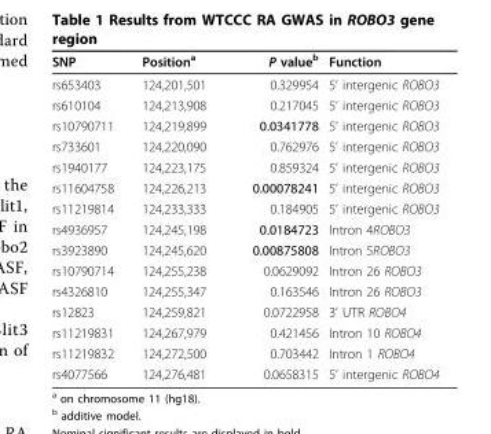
<table><thead><tr><td>SNP</td><td>Position<sup>a</sup></td><td>P value<sup>b</sup></td><td>Function</td></tr></thead><tbody><tr><td>rs653403</td><td>124,201,501</td><td>0.329954</td><td>5’ intergenic ROBO3</td></tr><tr><td>rs610104</td><td>124,213,908</td><td>0.217045</td><td>5’ intergenic ROBO3</td></tr><tr><td>rs10790711</td><td>124,219,899</td><td>0.0341778</td><td>5’ intergenic ROBO3</td></tr><tr><td>rs733601</td><td>124,220,090</td><td>0.762976</td><td>5’ intergenic ROBO3</td></tr><tr><td>rs1940177</td><td>124,223,175</td><td>0.859324</td><td>5’ intergenic ROBO3</td></tr><tr><td>rs11604758</td><td>124,226,213</td><td>0.00078241</td><td>5’ intergenic ROBO3</td></tr><tr><td>rs11219814</td><td>124,233,333</td><td>0.184905</td><td>5’ intergenic ROBO3</td></tr><tr><td>rs4936957</td><td>124,245,198</td><td>0.0184723</td><td>Intron 4ROBO3</td></tr><tr><td>rs3923890</td><td>124,245,620</td><td>0.00875808</td><td>Intron 5ROBO3</td></tr><tr><td>rs10790714</td><td>124,255,238</td><td>0.0629092</td><td>Intron 26 ROBO3</td></tr><tr><td>rs4326810</td><td>124,255,347</td><td>0.163546</td><td>Intron 26 ROBO3</td></tr><tr><td>rs12823</td><td>124,259,821</td><td>0.0722958</td><td>3’ UTR ROBO4</td></tr><tr><td>rs11219831</td><td>124,267,979</td><td>0.421456</td><td>Intron 10 ROBO4</td></tr><tr><td>rs11219832</td><td>124,272,500</td><td>0.703442</td><td>Intron 1 ROBO4</td></tr><tr><td>rs4077566</td><td>124,276,481</td><td>0.0658315</td><td>5’ intergenic ROBO4</td></tr></tbody></table>